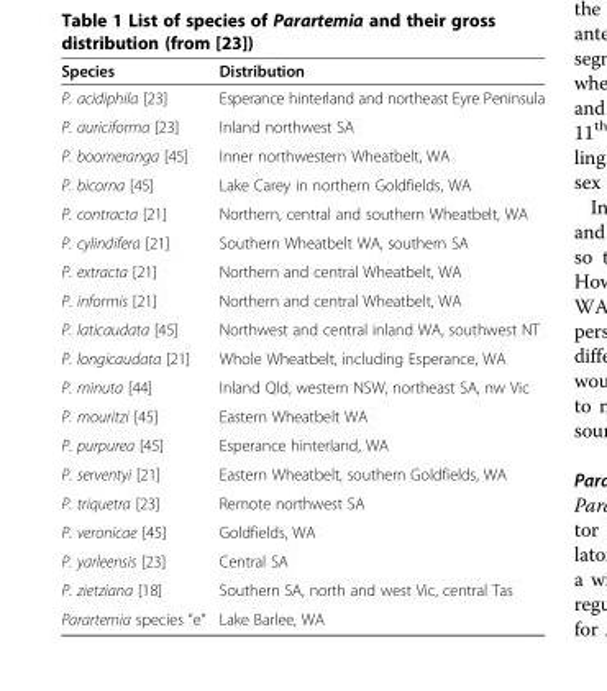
<table><thead><tr><td>Species</td><td>Distribution</td></tr></thead><tbody><tr><td>P. acidiphila [23]</td><td>Esperance hinterland and northeast Eyre Peninsula</td></tr><tr><td>P. auriciforma [23]</td><td>Inland northwest SA</td></tr><tr><td>P. boomeranga [45]</td><td>Inner northwestern Wheatbelt, WA</td></tr><tr><td>P. bicorna [45]</td><td>Lake Carey in northern Goldfields, WA</td></tr><tr><td>P. contracta [21]</td><td>Northern, central and southern Wheatbelt, WA</td></tr><tr><td>P. cylindifera [21]</td><td>Southern Wheatbelt WA, southern SA</td></tr><tr><td>P. extracta [21]</td><td>Northern and central Wheatbelt, WA</td></tr><tr><td>P. informis [21]</td><td>Northern and central Wheatbelt, WA</td></tr><tr><td>P. laticaudata [45]</td><td>Northwest and central inland WA, southwest NT</td></tr><tr><td>P. longicaudata [21]</td><td>Whole Wheatbelt, including Esperance, WA</td></tr><tr><td>P. minuta [44]</td><td>Inland Qld, western NSW, northeast SA, nw Vic</td></tr><tr><td>P. mouritzi [45]</td><td>Eastern Wheatbelt WA</td></tr><tr><td>P. purpurea [45]</td><td>Esperance hinterland, WA</td></tr><tr><td>P. serventyi [21]</td><td>Eastern Wheatbelt, southern Goldfields, WA</td></tr><tr><td>P. triquetra [23]</td><td>Remote northwest SA</td></tr><tr><td>P. veronicae [45]</td><td>Goldfields, WA</td></tr><tr><td>P. yarleensis [23]</td><td>Central SA</td></tr><tr><td>P. zietziana [18]</td><td>Southern SA, north and west Vic, central Tas</td></tr><tr><td>Parartemia species “e”</td><td>Lake Barlee, WA</td></tr></tbody></table>